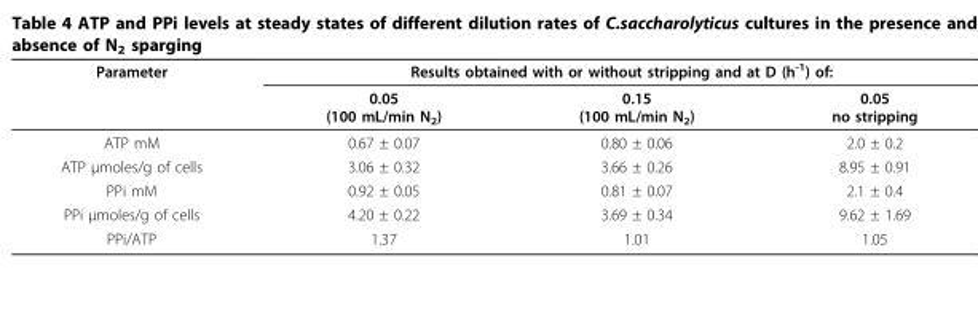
<table><thead><tr><td rowspan="2">Parameter</td><td colspan="3">Results obtained with or without stripping and at D (h<sup>-1</sup>) of:</td></tr><tr><td>0.05 (100 mL/min N<sub>2</sub>)</td><td>0.15 (100 mL/min N<sub>2</sub>)</td><td>0.05 no stripping</td></tr></thead><tbody><tr><td>ATP mM</td><td>0.67 ± 0.07</td><td>0.80 ± 0.06</td><td>2.0 ± 0.2</td></tr><tr><td>ATP μmoles/g of cells</td><td>3.06 ± 0.32</td><td>3.66 ± 0.26</td><td>8.95 ± 0.91</td></tr><tr><td>PPi mM</td><td>0.92 ± 0.05</td><td>0.81 ± 0.07</td><td>2.1 ± 0.4</td></tr><tr><td>PPi μmoles/g of cells</td><td>4.20 ± 0.22</td><td>3.69 ± 0.34</td><td>9.62 ± 1.69</td></tr><tr><td>PPi/ATP</td><td>1.37</td><td>1.01</td><td>1.05</td></tr></tbody></table>